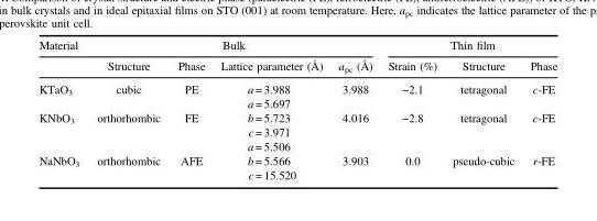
<table><thead><tr><td rowspan="2">Material</td><td colspan="4">Bulk</td><td colspan="3">Thin film</td></tr><tr><td>Structure</td><td>Phase</td><td>Lattice parameter (Å)</td><td>a<sub>pc</sub> (Å)</td><td>Strain (%)</td><td>Structure</td><td>Phase</td></tr></thead><tbody><tr><td rowspan="2">KTaO<sub>3</sub></td><td>cubic</td><td>PE</td><td>a = 3.988</td><td>3.988</td><td>−2.1</td><td>tetragonal</td><td>c-FE</td></tr><tr><td></td><td></td><td>a = 5.697</td><td></td><td></td><td></td><td></td></tr><tr><td rowspan="3">KNbO<sub>3</sub></td><td>orthorhombic</td><td>FE</td><td>b = 5.723</td><td>4.016</td><td>−2.8</td><td>tetragonal</td><td>c-FE</td></tr><tr><td></td><td></td><td>c = 3.971</td><td></td><td></td><td></td><td></td></tr><tr><td></td><td></td><td>a = 5.506</td><td></td><td></td><td></td><td></td></tr><tr><td rowspan="2">NaNbO<sub>3</sub></td><td>orthorhombic</td><td>AFE</td><td>b = 5.566</td><td>3.903</td><td>0.0</td><td>pseudo-cubic</td><td>r-FE</td></tr><tr><td></td><td></td><td>c = 15.520</td><td></td><td></td><td></td><td></td></tr></tbody></table>